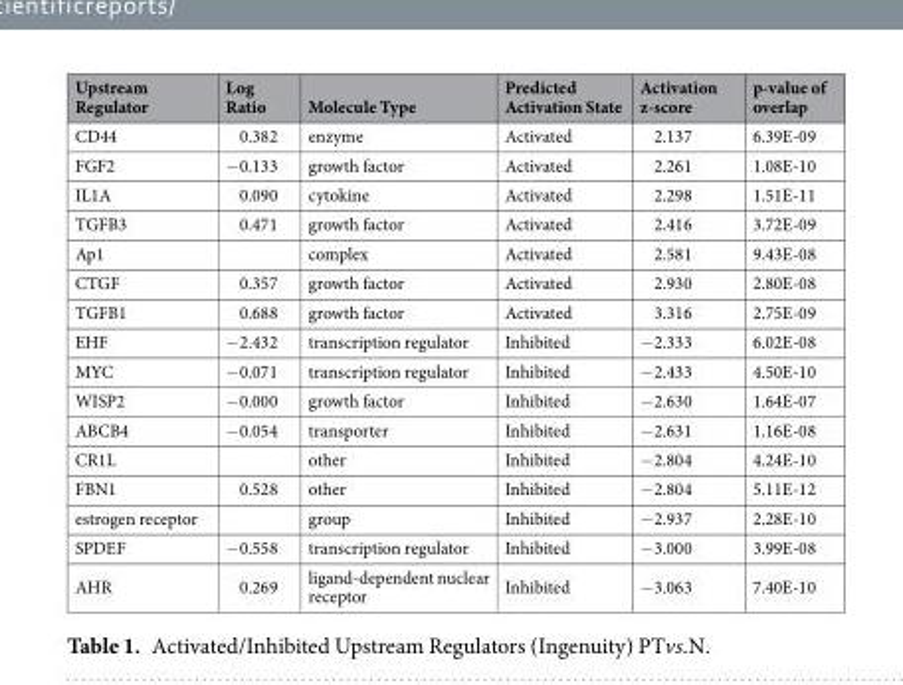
<table><thead><tr><td>Upstream Regulator</td><td>Log Ratio</td><td>Molecule Type</td><td>Predicted Activation State</td><td>Activation z-score</td><td>p-value of overlap</td></tr></thead><tbody><tr><td>CD44</td><td>0.382</td><td>enzyme</td><td>Activated</td><td>2.137</td><td>6.39E-09</td></tr><tr><td>FGF2</td><td>−0.133</td><td>growth factor</td><td>Activated</td><td>2.261</td><td>1.08E-10</td></tr><tr><td>IL1A</td><td>0.090</td><td>cytokine</td><td>Activated</td><td>2.298</td><td>1.51E-11</td></tr><tr><td>TGFB3</td><td>0.471</td><td>growth factor</td><td>Activated</td><td>2.416</td><td>3.72E-09</td></tr><tr><td>Ap1</td><td></td><td>complex</td><td>Activated</td><td>2.581</td><td>9.43E-08</td></tr><tr><td>CTGF</td><td>0.357</td><td>growth factor</td><td>Activated</td><td>2.930</td><td>2.80E-08</td></tr><tr><td>TGFB1</td><td>0.688</td><td>growth factor</td><td>Activated</td><td>3.316</td><td>2.75E-09</td></tr><tr><td>EHF</td><td>−2.432</td><td>transcription regulator</td><td>Inhibited</td><td>−2.333</td><td>6.02E-08</td></tr><tr><td>MYC</td><td>−0.071</td><td>transcription regulator</td><td>Inhibited</td><td>−2.433</td><td>4.50E-10</td></tr><tr><td>WISP2</td><td>−0.000</td><td>growth factor</td><td>Inhibited</td><td>−2.630</td><td>1.64E-07</td></tr><tr><td>ABCB4</td><td>−0.054</td><td>transporter</td><td>Inhibited</td><td>−2.631</td><td>1.16E-08</td></tr><tr><td>CR1L</td><td></td><td>other</td><td>Inhibited</td><td>−2.804</td><td>4.24E-10</td></tr><tr><td>FBN1</td><td>0.528</td><td>other</td><td>Inhibited</td><td>−2.804</td><td>5.11E-12</td></tr><tr><td>estrogen receptor</td><td></td><td>group</td><td>Inhibited</td><td>−2.937</td><td>2.28E-10</td></tr><tr><td>SPDEF</td><td>−0.558</td><td>transcription regulator</td><td>Inhibited</td><td>−3.000</td><td>3.99E-08</td></tr><tr><td>AHR</td><td>0.269</td><td>ligand-dependent nuclear receptor</td><td>Inhibited</td><td>−3.063</td><td>7.40E-10</td></tr></tbody></table>